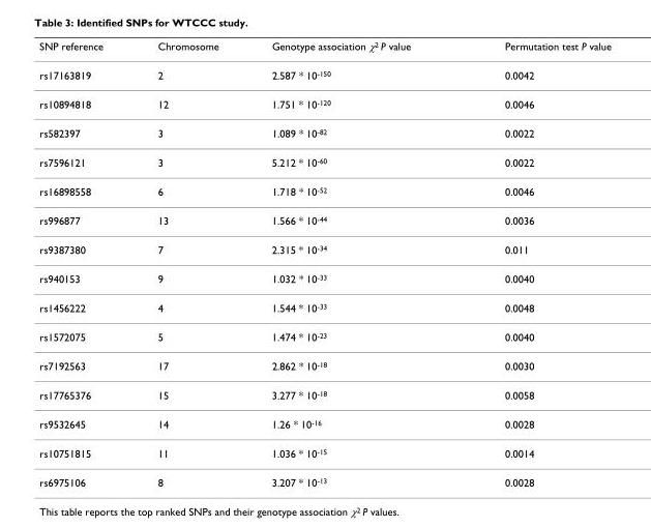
<table><thead><tr><td>SNP reference</td><td>Chromosome</td><td>Genotype association χ<sup>2</sup> P value</td><td>Permutation test P value</td></tr></thead><tbody><tr><td>rs17163819</td><td>2</td><td>2.587 * 10<sup>-150</sup></td><td>0.0042</td></tr><tr><td>rs10894818</td><td>12</td><td>1.751 * 10<sup>-120</sup></td><td>0.0046</td></tr><tr><td>rs582397</td><td>3</td><td>1.089 * 10<sup>-82</sup></td><td>0.0022</td></tr><tr><td>rs7596121</td><td>3</td><td>5.212 * 10<sup>-60</sup></td><td>0.0022</td></tr><tr><td>rs16898558</td><td>6</td><td>1.718 * 10<sup>-52</sup></td><td>0.0046</td></tr><tr><td>rs996877</td><td>13</td><td>1.566 * 10<sup>-44</sup></td><td>0.0036</td></tr><tr><td>rs9387380</td><td>7</td><td>2.315 * 10<sup>-34</sup></td><td>0.011</td></tr><tr><td>rs940153</td><td>9</td><td>1.032 * 10<sup>-33</sup></td><td>0.0040</td></tr><tr><td>rs1456222</td><td>4</td><td>1.544 * 10<sup>-33</sup></td><td>0.0048</td></tr><tr><td>rs1572075</td><td>5</td><td>1.474 * 10<sup>-23</sup></td><td>0.0040</td></tr><tr><td>rs7192563</td><td>17</td><td>2.862 * 10<sup>-18</sup></td><td>0.0030</td></tr><tr><td>rs17765376</td><td>15</td><td>3.277 * 10<sup>-18</sup></td><td>0.0058</td></tr><tr><td>rs9532645</td><td>14</td><td>1.26 * 10<sup>-16</sup></td><td>0.0028</td></tr><tr><td>rs10751815</td><td>11</td><td>1.036 * 10<sup>-15</sup></td><td>0.0014</td></tr><tr><td>rs6975106</td><td>8</td><td>3.207 * 10<sup>-13</sup></td><td>0.0028</td></tr></tbody></table>